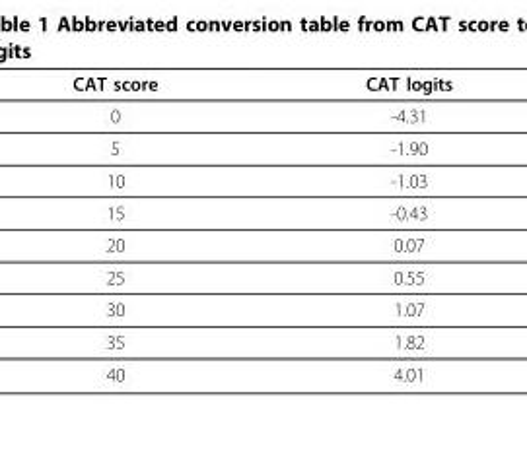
<table><thead><tr><td>CAT score</td><td>CAT logits</td></tr></thead><tbody><tr><td>0</td><td>-4.31</td></tr><tr><td>5</td><td>-1.90</td></tr><tr><td>10</td><td>-1.03</td></tr><tr><td>15</td><td>-0.43</td></tr><tr><td>20</td><td>0.07</td></tr><tr><td>25</td><td>0.55</td></tr><tr><td>30</td><td>1.07</td></tr><tr><td>35</td><td>1.82</td></tr><tr><td>40</td><td>4.01</td></tr></tbody></table>